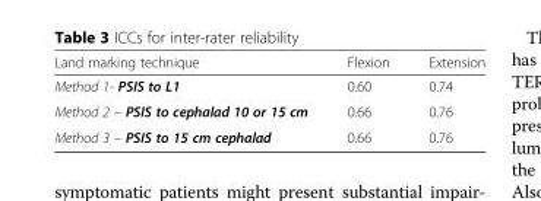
<table><thead><tr><td>Land marking technique</td><td>Flexion</td><td>Extension</td></tr></thead><tbody><tr><td>Method 1- PSIS to L1</td><td>0.60</td><td>0.74</td></tr><tr><td>Method 2 – PSIS to cephalad 10 or 15 cm</td><td>0.66</td><td>0.76</td></tr><tr><td>Method 3 – PSIS to 15 cm cephalad</td><td>0.66</td><td>0.76</td></tr></tbody></table>